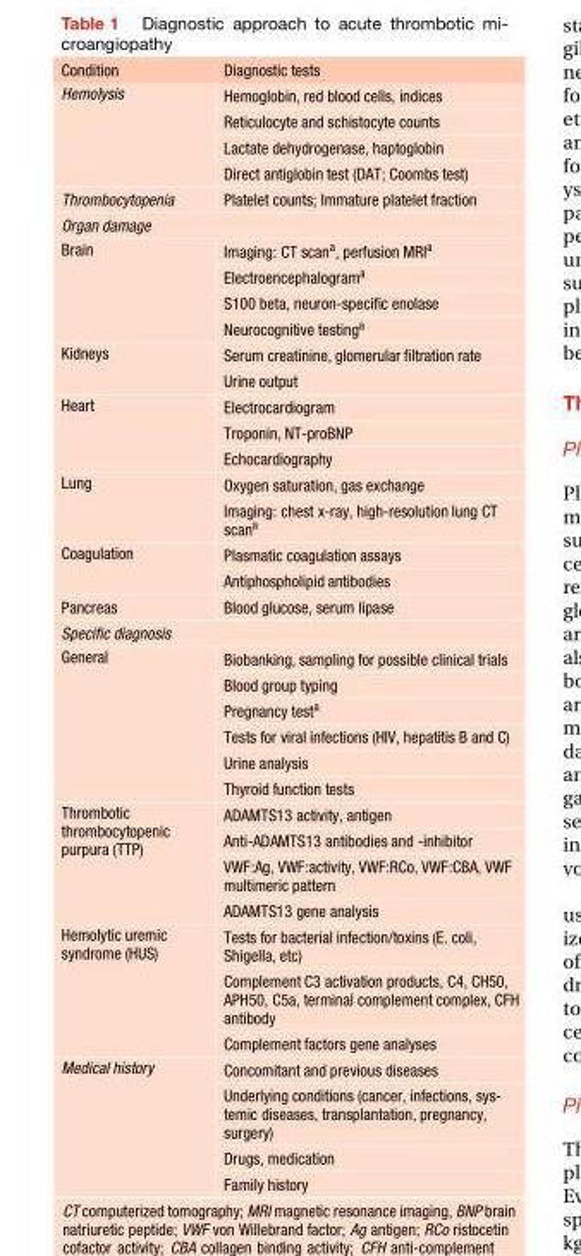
<table><thead><tr><td>Condition</td><td>Diagnostic tests</td></tr></thead><tbody><tr><td rowspan="4">Hemolysis</td><td>Hemoglobin, red blood cells, indices</td></tr><tr><td>Reticulocyte and schistocyte counts</td></tr><tr><td>Lactate dehydrogenase, haptoglobin</td></tr><tr><td>Direct antiglobin test (DAT; Coombs test)</td></tr><tr><td>Thrombocytopenia</td><td>Platelet counts; Immature platelet fraction</td></tr><tr><td colspan="2">Organ damage</td></tr><tr><td rowspan="4">Brain</td><td>Imaging: CT scan<sup>a</sup>, perfusion MRI<sup>a</sup></td></tr><tr><td>Electroencephalogram<sup>a</sup></td></tr><tr><td>S100 beta, neuron-specific enolase</td></tr><tr><td>Neurocognitive testing<sup>a</sup></td></tr><tr><td rowspan="2">Kidneys</td><td>Serum creatinine, glomerular filtration rate</td></tr><tr><td>Urine output</td></tr><tr><td rowspan="3">Heart</td><td>Electrocardiogram</td></tr><tr><td>Troponin, NT-proBNP</td></tr><tr><td>Echocardiography</td></tr><tr><td rowspan="2">Lung</td><td>Oxygen saturation, gas exchange</td></tr><tr><td>Imaging: chest x-ray, high-resolution lung CT scan<sup>a</sup></td></tr><tr><td rowspan="2">Coagulation</td><td>Plasmatic coagulation assays</td></tr><tr><td>Antiphospholipid antibodies</td></tr><tr><td>Pancreas</td><td>Blood glucose, serum lipase</td></tr><tr><td colspan="2">Specific diagnosis</td></tr><tr><td rowspan="6">General</td><td>Biobanking, sampling for possible clinical trials</td></tr><tr><td>Blood group typing</td></tr><tr><td>Pregnancy test<sup>a</sup></td></tr><tr><td>Tests for viral infections (HIV, hepatitis B and C)</td></tr><tr><td>Urine analysis</td></tr><tr><td>Thyroid function tests</td></tr><tr><td rowspan="4">Thrombotic thrombocytopenic purpura (TTP)</td><td>ADAMTS13 activity, antigen</td></tr><tr><td>Anti-ADAMTS13 antibodies and -inhibitor</td></tr><tr><td>VWF:Ag, VWF:activity, VWF:RCo, VWF:CBA, VWF multimeric pattern</td></tr><tr><td>ADAMTS13 gene analysis</td></tr><tr><td rowspan="3">Hemolytic uremic syndrome (HUS)</td><td>Tests for bacterial infection/toxins (E. coli, Shigella, etc)</td></tr><tr><td>Complement C3 activation products, C4, CH50, APH50, C5a, terminal complement complex, CFH antibody</td></tr><tr><td>Complement factors gene analyses</td></tr><tr><td rowspan="4">Medical history</td><td>Concomitant and previous diseases</td></tr><tr><td>Underlying conditions (cancer, infections, sys- temic diseases, transplantation, pregnancy, surgery)</td></tr><tr><td>Drugs, medication</td></tr><tr><td>Family history</td></tr></tbody></table>